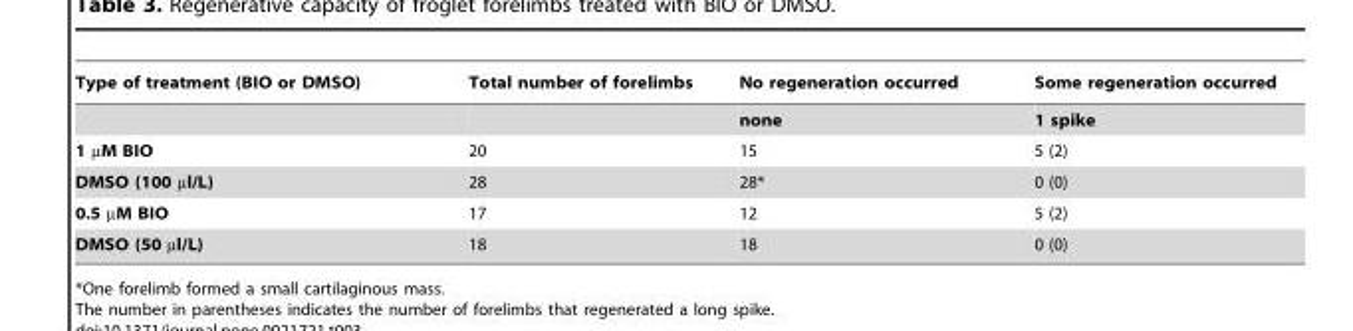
<table><thead><tr><td>Type of treatment (BIO or DMSO)</td><td>Total number of forelimbs</td><td>No regeneration occurred</td><td>Some regeneration occurred</td></tr></thead><tbody><tr><td></td><td></td><td>none</td><td>1 spike</td></tr><tr><td>1 µM BIO</td><td>20</td><td>15</td><td>5 (2)</td></tr><tr><td>DMSO (100 µl/L)</td><td>28</td><td>28*</td><td>0 (0)</td></tr><tr><td>0.5 µM BIO</td><td>17</td><td>12</td><td>5 (2)</td></tr><tr><td>DMSO (50 µl/L)</td><td>18</td><td>18</td><td>0 (0)</td></tr></tbody></table>